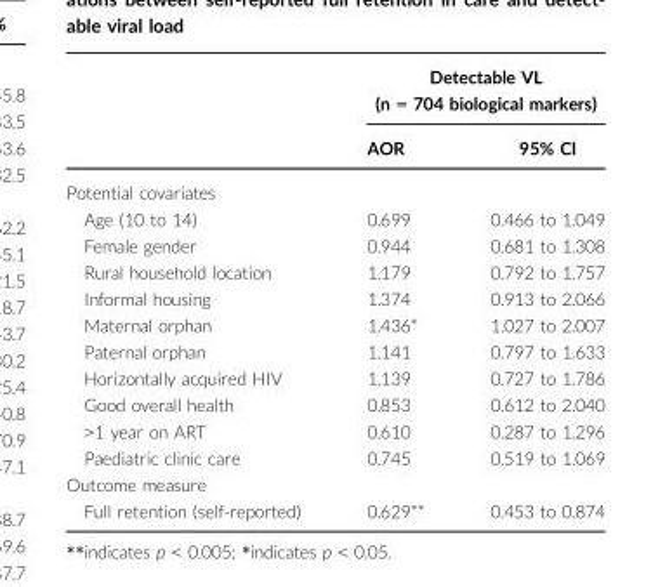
<table><thead><tr><td rowspan="2"></td><td colspan="2">Detectable VL (n = 704 biological markers)</td></tr><tr><td>AOR</td><td>95% CI</td></tr></thead><tbody><tr><td colspan="3">Potential covariates</td></tr><tr><td>Age (10 to 14)</td><td>0.699</td><td>0.466 to 1.049</td></tr><tr><td>Female gender</td><td>0.944</td><td>0.681 to 1.308</td></tr><tr><td>Rural household location</td><td>1.179</td><td>0.792 to 1.757</td></tr><tr><td>Informal housing</td><td>1.374</td><td>0.913 to 2.066</td></tr><tr><td>Maternal orphan</td><td>1.436*</td><td>1.027 to 2.007</td></tr><tr><td>Paternal orphan</td><td>1.141</td><td>0.797 to 1.633</td></tr><tr><td>Horizontally acquired HIV</td><td>1.139</td><td>0.727 to 1.786</td></tr><tr><td>Good overall health</td><td>0.853</td><td>0.612 to 2.040</td></tr><tr><td>&gt;1 year on ART</td><td>0.610</td><td>0.287 to 1.296</td></tr><tr><td>Paediatric clinic care</td><td>0.745</td><td>0.519 to 1.069</td></tr><tr><td colspan="3">Outcome measure</td></tr><tr><td>Full retention (self-reported)</td><td>0.629**</td><td>0.453 to 0.874</td></tr></tbody></table>